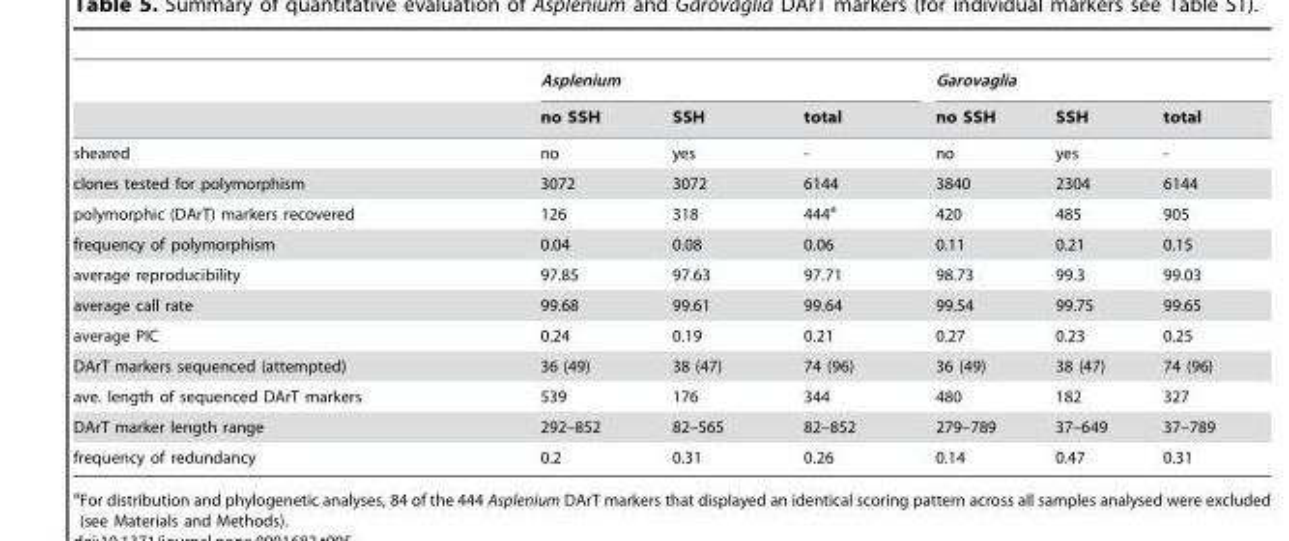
<table><thead><tr><td rowspan="2"></td><td colspan="3">Asplenium</td><td colspan="3">Garovaglia</td></tr><tr><td>no SSH</td><td>SSH</td><td>total</td><td>no SSH</td><td>SSH</td><td>total</td></tr></thead><tbody><tr><td>sheared</td><td>no</td><td>yes</td><td>-</td><td>no</td><td>yes</td><td>-</td></tr><tr><td>clones tested for polymorphism</td><td>3072</td><td>3072</td><td>6144</td><td>3840</td><td>2304</td><td>6144</td></tr><tr><td>polymorphic (DArT) markers recovered</td><td>126</td><td>318</td><td>444<sup>a</sup></td><td>420</td><td>485</td><td>905</td></tr><tr><td>frequency of polymorphism</td><td>0.04</td><td>0.08</td><td>0.06</td><td>0.11</td><td>0.21</td><td>0.15</td></tr><tr><td>average reproducibility</td><td>97.85</td><td>97.63</td><td>97.71</td><td>98.73</td><td>99.3</td><td>99.03</td></tr><tr><td>average call rate</td><td>99.68</td><td>99.61</td><td>99.64</td><td>99.54</td><td>99.75</td><td>99.65</td></tr><tr><td>average PIC</td><td>0.24</td><td>0.19</td><td>0.21</td><td>0.27</td><td>0.23</td><td>0.25</td></tr><tr><td>DArT markers sequenced (attempted)</td><td>36 (49)</td><td>38 (47)</td><td>74 (96)</td><td>36 (49)</td><td>38 (47)</td><td>74 (96)</td></tr><tr><td>ave. length of sequenced DArT markers</td><td>539</td><td>176</td><td>344</td><td>480</td><td>182</td><td>327</td></tr><tr><td>DArT marker length range</td><td>292–852</td><td>82–565</td><td>82–852</td><td>279–789</td><td>37–649</td><td>37–789</td></tr><tr><td>frequency of redundancy</td><td>0.2</td><td>0.31</td><td>0.26</td><td>0.14</td><td>0.47</td><td>0.31</td></tr></tbody></table>